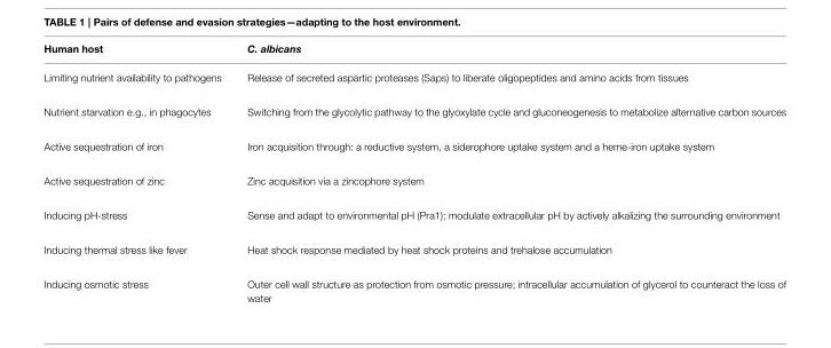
<table><thead><tr><td>Human host</td><td>C. albicans</td></tr></thead><tbody><tr><td>Limiting nutrient availability to pathogens</td><td>Release of secreted aspartic proteases (Saps) to liberate oligopeptides and amino acids from tissues</td></tr><tr><td>Nutrient starvation e.g., in phagocytes</td><td>Switching from the glycolytic pathway to the glyoxylate cycle and gluconeogenesis to metabolize alternative carbon sources</td></tr><tr><td>Active sequestration of iron</td><td>Iron acquisition through: a reductive system, a siderophore uptake system and a heme-iron uptake system</td></tr><tr><td>Active sequestration of zinc</td><td>Zinc acquisition via a zincophore system</td></tr><tr><td>Inducing pH-stress</td><td>Sense and adapt to environmental pH (Pra1); modulate extracellular pH by actively alkalizing the surrounding environment</td></tr><tr><td>Inducing thermal stress like fever</td><td>Heat shock response mediated by heat shock proteins and trehalose accumulation</td></tr><tr><td>Inducing osmotic stress</td><td>Outer cell wall structure as protection from osmotic pressure; intracellular accumulation of glycerol to counteract the loss of water</td></tr></tbody></table>